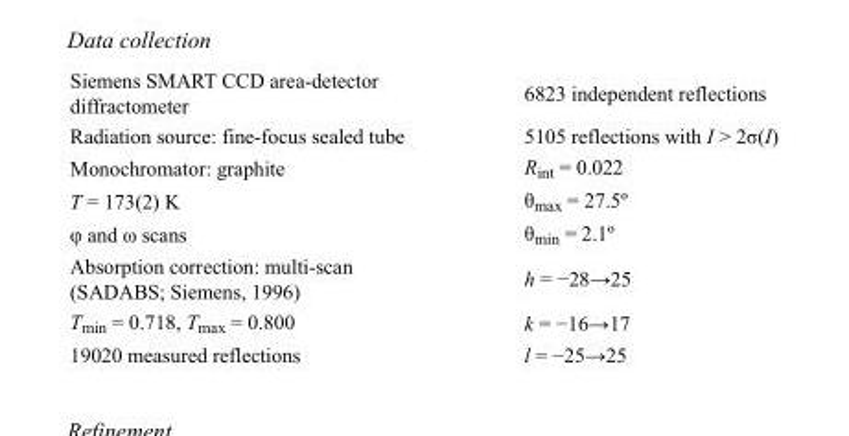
<table><tbody><tr><td>Siemens SMART CCD area-detector diffractometer</td><td>6823 independent reflections</td></tr><tr><td>Radiation source: fine-focus sealed tube</td><td>5105 reflections with I &gt; 2σ(I)</td></tr><tr><td>Monochromator: graphite</td><td>R<sub>int</sub> = 0.022</td></tr><tr><td>T = 173(2) K</td><td>θ<sub>max</sub> = 27.5º</td></tr><tr><td>φ and ω scans</td><td>θ<sub>min</sub> = 2.1º</td></tr><tr><td>Absorption correction: multi-scan (SADABS; Siemens, 1996)</td><td>h = −28→25</td></tr><tr><td>T<sub>min</sub> = 0.718, T<sub>max</sub> = 0.800</td><td>k = −16→17</td></tr><tr><td>19020 measured reflections</td><td>l = −25→25</td></tr></tbody></table>